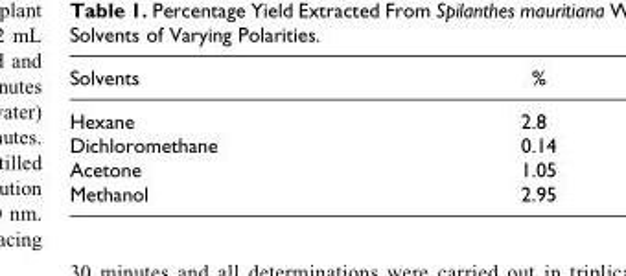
<table><thead><tr><td>Solvents</td><td>%</td></tr></thead><tbody><tr><td>Hexane</td><td>2.8</td></tr><tr><td>Dichloromethane</td><td>0.14</td></tr><tr><td>Acetone</td><td>1.05</td></tr><tr><td>Methanol</td><td>2.95</td></tr></tbody></table>